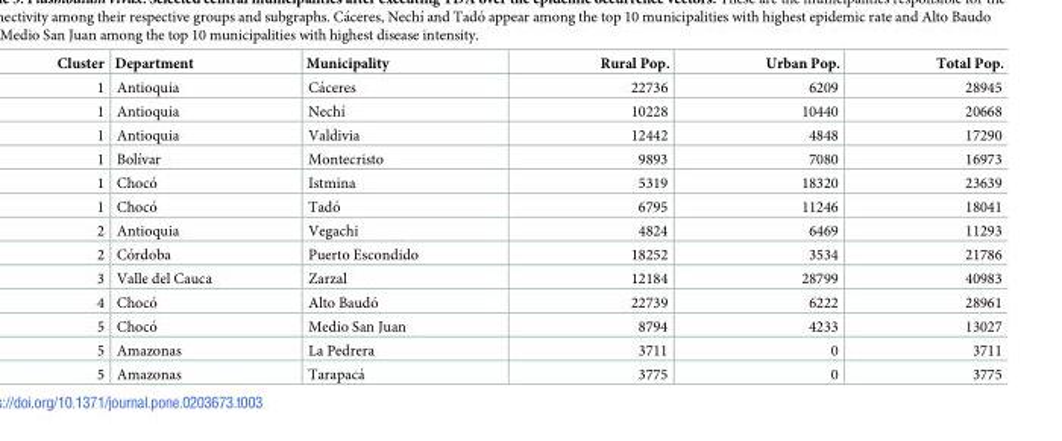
<table><thead><tr><td>Cluster</td><td>Department</td><td>Municipality</td><td>Rural Pop.</td><td>Urban Pop.</td><td>Total Pop.</td></tr></thead><tbody><tr><td>1</td><td>Antioquia</td><td>Ca´ceres</td><td>22736</td><td>6209</td><td>28945</td></tr><tr><td>1</td><td>Antioquia</td><td>Nechı´</td><td>10228</td><td>10440</td><td>20668</td></tr><tr><td>1</td><td>Antioquia</td><td>Valdivia</td><td>12442</td><td>4848</td><td>17290</td></tr><tr><td>1</td><td>Bolı´var</td><td>Montecristo</td><td>9893</td><td>7080</td><td>16973</td></tr><tr><td>1</td><td>Choco´</td><td>Istmina</td><td>5319</td><td>18320</td><td>23639</td></tr><tr><td>1</td><td>Choco´</td><td>Tado´</td><td>6795</td><td>11246</td><td>18041</td></tr><tr><td>2</td><td>Antioquia</td><td>Vegachi</td><td>4824</td><td>6469</td><td>11293</td></tr><tr><td>2</td><td>Co´rdoba</td><td>Puerto Escondido</td><td>18252</td><td>3534</td><td>21786</td></tr><tr><td>3</td><td>Valle del Cauca</td><td>Zarzal</td><td>12184</td><td>28799</td><td>40983</td></tr><tr><td>4</td><td>Choco´</td><td>Alto Baudo´</td><td>22739</td><td>6222</td><td>28961</td></tr><tr><td>5</td><td>Choco´</td><td>Medio San Juan</td><td>8794</td><td>4233</td><td>13027</td></tr><tr><td>5</td><td>Amazonas</td><td>La Pedrera</td><td>3711</td><td>0</td><td>3711</td></tr><tr><td>5</td><td>Amazonas</td><td>Tarapaca´</td><td>3775</td><td>0</td><td>3775</td></tr></tbody></table>